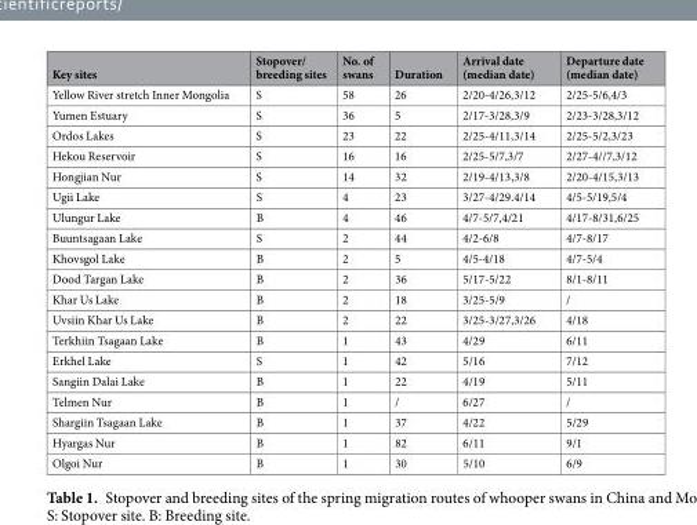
<table><thead><tr><td>Key sites</td><td>Stopover/ breeding sites</td><td>No. of swans</td><td>Duration</td><td>Arrival date (median date)</td><td>Departure date (median date)</td></tr></thead><tbody><tr><td>Yellow River stretch Inner Mongolia</td><td>S</td><td>58</td><td>26</td><td>2/20-4/26,3/12</td><td>2/25-5/6,4/3</td></tr><tr><td>Yumen Estuary</td><td>S</td><td>36</td><td>5</td><td>2/17-3/28,3/9</td><td>2/23-3/28,3/12</td></tr><tr><td>Ordos Lakes</td><td>S</td><td>23</td><td>22</td><td>2/25-4/11,3/14</td><td>2/25-5/2,3/23</td></tr><tr><td>Hekou Reservoir</td><td>S</td><td>16</td><td>16</td><td>2/25-5/7,3/7</td><td>2/27-4//7,3/12</td></tr><tr><td>Hongjian Nur</td><td>S</td><td>14</td><td>32</td><td>2/19-4/13,3/8</td><td>2/20-4/15,3/13</td></tr><tr><td>Ugii Lake</td><td>S</td><td>4</td><td>23</td><td>3/27-4/29.4/14</td><td>4/5-5/19,5/4</td></tr><tr><td>Ulungur Lake</td><td>B</td><td>4</td><td>46</td><td>4/7-5/7,4/21</td><td>4/17-8/31,6/25</td></tr><tr><td>Buuntsagaan Lake</td><td>S</td><td>2</td><td>44</td><td>4/2-6/8</td><td>4/7-8/17</td></tr><tr><td>Khovsgol Lake</td><td>B</td><td>2</td><td>5</td><td>4/5-4/18</td><td>4/7-5/4</td></tr><tr><td>Dood Targan Lake</td><td>B</td><td>2</td><td>36</td><td>5/17-5/22</td><td>8/1-8/11</td></tr><tr><td>Khar Us Lake</td><td>B</td><td>2</td><td>18</td><td>3/25-5/9</td><td>/</td></tr><tr><td>Uvsiin Khar Us Lake</td><td>B</td><td>2</td><td>22</td><td>3/25-3/27,3/26</td><td>4/18</td></tr><tr><td>Terkhiin Tsagaan Lake</td><td>B</td><td>1</td><td>43</td><td>4/29</td><td>6/11</td></tr><tr><td>Erkhel Lake</td><td>S</td><td>1</td><td>42</td><td>5/16</td><td>7/12</td></tr><tr><td>Sangiin Dalai Lake</td><td>B</td><td>1</td><td>22</td><td>4/19</td><td>5/11</td></tr><tr><td>Telmen Nur</td><td>B</td><td>1</td><td>/</td><td>6/27</td><td>/</td></tr><tr><td>Shargiin Tsagaan Lake</td><td>B</td><td>1</td><td>37</td><td>4/22</td><td>5/29</td></tr><tr><td>Hyargas Nur</td><td>B</td><td>1</td><td>82</td><td>6/11</td><td>9/1</td></tr><tr><td>Olgoi Nur</td><td>B</td><td>1</td><td>30</td><td>5/10</td><td>6/9</td></tr></tbody></table>